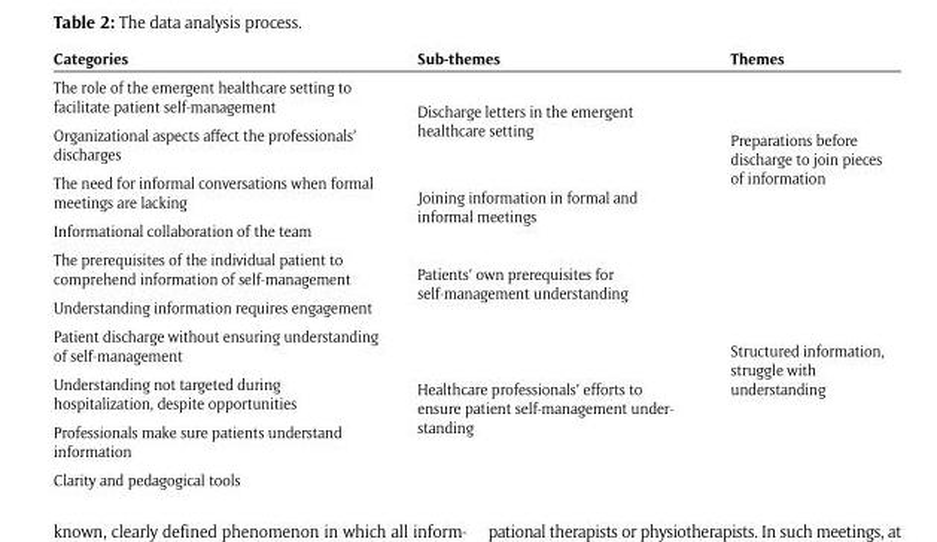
<table><thead><tr><td>Categories</td><td>Sub-themes</td><td>Themes</td></tr></thead><tbody><tr><td>The role of the emergent healthcare setting to facilitate patient self-management</td><td rowspan="2">Discharge letters in the emergent healthcare setting</td><td rowspan="4">Preparations before discharge to join pieces of information</td></tr><tr><td>Organizational aspects affect the professionals’ discharges</td></tr><tr><td>The need for informal conversations when formal meetings are lacking</td><td rowspan="2">Joining information in formal and informal meetings</td></tr><tr><td>Informational collaboration of the team</td></tr><tr><td>The prerequisites of the individual patient to comprehend information of self-management</td><td rowspan="2">Patients’ own prerequisites for self-management understanding</td><td rowspan="6">Structured information, struggle with understanding</td></tr><tr><td>Understanding information requires engagement</td></tr><tr><td>Patient discharge without ensuring understanding of self-management</td><td rowspan="4">Healthcare professionals’ efforts to ensure patient self-management under- standing</td></tr><tr><td>Understanding not targeted during hospitalization, despite opportunities</td></tr><tr><td>Professionals make sure patients understand information</td></tr><tr><td>Clarity and pedagogical tools</td></tr></tbody></table>